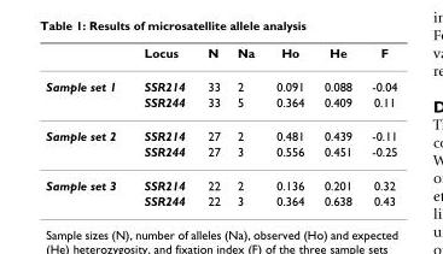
<table><thead><tr><td></td><td>Locus</td><td>N</td><td>Na</td><td>Ho</td><td>He</td><td>F</td></tr></thead><tbody><tr><td rowspan="2">Sample set 1</td><td>SSR214</td><td>33</td><td>2</td><td>0.091</td><td>0.088</td><td>-0.04</td></tr><tr><td>SSR244</td><td>33</td><td>5</td><td>0.364</td><td>0.409</td><td>0.11</td></tr><tr><td rowspan="2">Sample set 2</td><td>SSR214</td><td>27</td><td>2</td><td>0.481</td><td>0.439</td><td>-0.11</td></tr><tr><td>SSR244</td><td>27</td><td>3</td><td>0.556</td><td>0.451</td><td>-0.25</td></tr><tr><td rowspan="2">Sample set 3</td><td>SSR214</td><td>22</td><td>2</td><td>0.136</td><td>0.201</td><td>0.32</td></tr><tr><td>SSR244</td><td>22</td><td>3</td><td>0.364</td><td>0.638</td><td>0.43</td></tr></tbody></table>